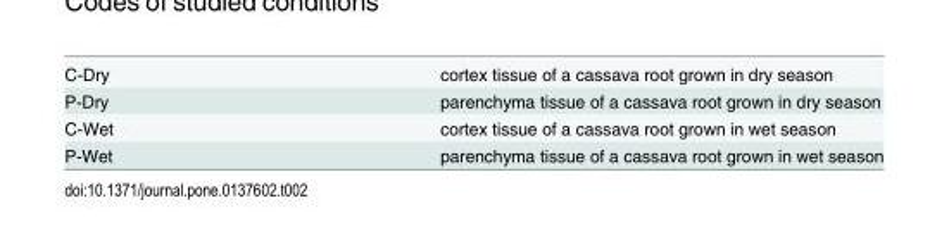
<table><tbody><tr><td>C-Dry</td><td>cortex tissue of a cassava root grown in dry season</td></tr><tr><td>P-Dry</td><td>parenchyma tissue of a cassava root grown in dry season</td></tr><tr><td>C-Wet</td><td>cortex tissue of a cassava root grown in wet season</td></tr><tr><td>P-Wet</td><td>parenchyma tissue of a cassava root grown in wet season</td></tr></tbody></table>